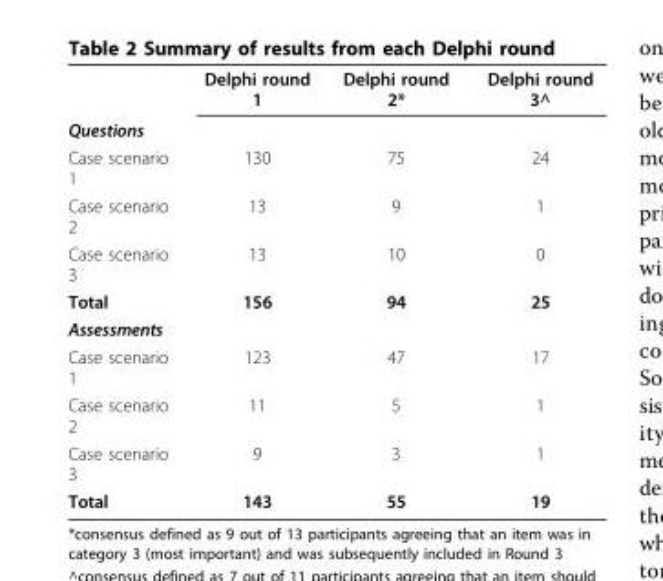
<table><thead><tr><td></td><td>Delphi round 1</td><td>Delphi round 2*</td><td>Delphi round 3^</td></tr></thead><tbody><tr><td colspan="4">Questions</td></tr><tr><td>Case scenario 1</td><td>130</td><td>75</td><td>24</td></tr><tr><td>Case scenario 2</td><td>13</td><td>9</td><td>1</td></tr><tr><td>Case scenario 3</td><td>13</td><td>10</td><td>0</td></tr><tr><td>Total</td><td>156</td><td>94</td><td>25</td></tr><tr><td colspan="4">Assessments</td></tr><tr><td>Case scenario 1</td><td>123</td><td>47</td><td>17</td></tr><tr><td>Case scenario 2</td><td>11</td><td>5</td><td>1</td></tr><tr><td>Case scenario 3</td><td>9</td><td>3</td><td>1</td></tr><tr><td>Total</td><td>143</td><td>55</td><td>19</td></tr></tbody></table>